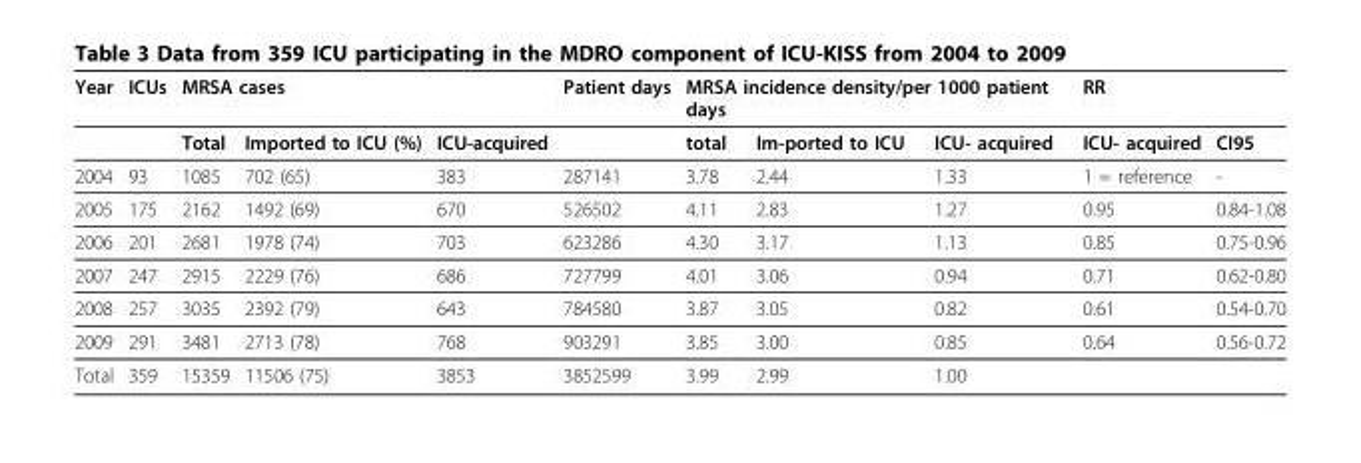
<table><thead><tr><td rowspan="2">Year</td><td rowspan="2">ICUs</td><td colspan="3">MRSA cases</td><td rowspan="2">Patient days</td><td colspan="3">MRSA incidence density/per 1000 patient days</td><td rowspan="2">RR ICU- acquired</td><td rowspan="2">CI95</td></tr><tr><td>Total</td><td>Imported to ICU (%)</td><td>ICU-acquired</td><td>total</td><td>Im-ported to ICU</td><td>ICU- acquired</td></tr></thead><tbody><tr><td>2004</td><td>93</td><td>1085</td><td>702 (65)</td><td>383</td><td>287141</td><td>3.78</td><td>2.44</td><td>1.33</td><td>1 = reference</td><td>-</td></tr><tr><td>2005</td><td>175</td><td>2162</td><td>1492 (69)</td><td>670</td><td>526502</td><td>4.11</td><td>2.83</td><td>1.27</td><td>0.95</td><td>0.84-1.08</td></tr><tr><td>2006</td><td>201</td><td>2681</td><td>1978 (74)</td><td>703</td><td>623286</td><td>4.30</td><td>3.17</td><td>1.13</td><td>0.85</td><td>0.75-0.96</td></tr><tr><td>2007</td><td>247</td><td>2915</td><td>2229 (76)</td><td>686</td><td>727799</td><td>4.01</td><td>3.06</td><td>0.94</td><td>0.71</td><td>0.62-0.80</td></tr><tr><td>2008</td><td>257</td><td>3035</td><td>2392 (79)</td><td>643</td><td>784580</td><td>3.87</td><td>3.05</td><td>0.82</td><td>0.61</td><td>0.54-0.70</td></tr><tr><td>2009</td><td>291</td><td>3481</td><td>2713 (78)</td><td>768</td><td>903291</td><td>3.85</td><td>3.00</td><td>0.85</td><td>0.64</td><td>0.56-0.72</td></tr><tr><td>Total</td><td>359</td><td>15359</td><td>11506 (75)</td><td>3853</td><td>3852599</td><td>3.99</td><td>2.99</td><td>1.00</td><td></td><td></td></tr></tbody></table>